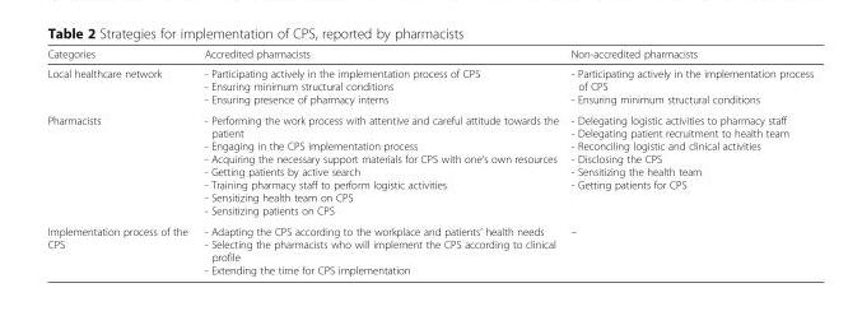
<table><thead><tr><td>Categories</td><td>Accredited pharmacists</td><td>Non-accredited pharmacists</td></tr></thead><tbody><tr><td>Local healthcare network</td><td>- Participating actively in the implementation process of CPS - Ensuring minimum structural conditions - Ensuring presence of pharmacy interns</td><td>- Participating actively in the implementation process of CPS - Ensuring minimum structural conditions</td></tr><tr><td>Pharmacists</td><td>- Performing the work process with attentive and careful attitude towards the patient - Engaging in the CPS implementation process - Acquiring the necessary support materials for CPS with one’s own resources - Getting patients by active search - Training pharmacy staff to perform logistic activities - Sensitizing health team on CPS - Sensitizing patients on CPS</td><td>- Delegating logistic activities to pharmacy staff - Delegating patient recruitment to health team - Reconciling logistic and clinical activities - Disclosing the CPS - Sensitizing the health team - Getting patients for CPS</td></tr><tr><td>Implementation process of the CPS</td><td>- Adapting the CPS according to the workplace and patients’ health needs - Selecting the pharmacists who will implement the CPS according to clinical profile - Extending the time for CPS implementation</td><td>–</td></tr></tbody></table>